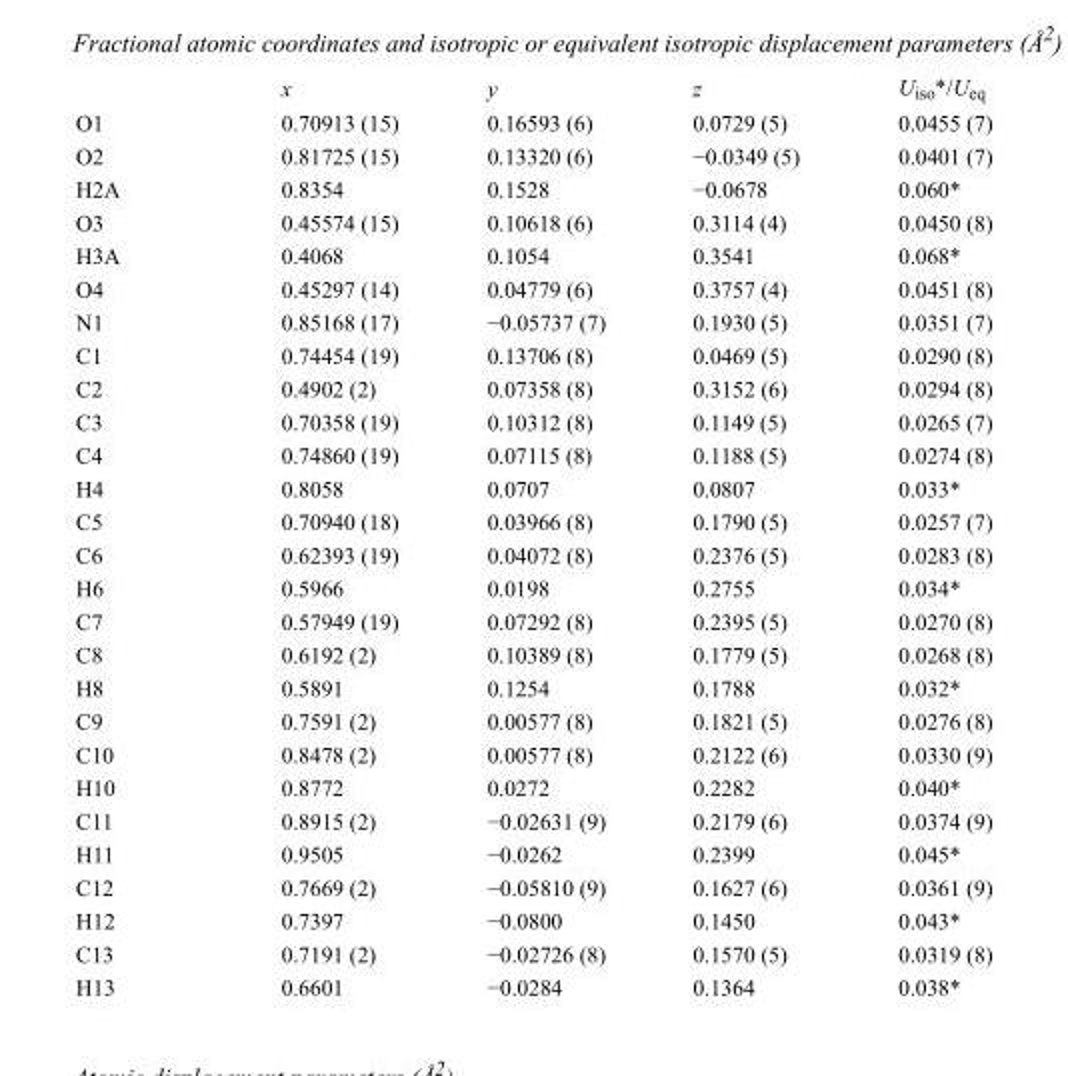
<table><thead><tr><td></td><td>x</td><td>y</td><td>z</td><td>U<sub>iso</sub>*/U<sub>eq</sub></td></tr></thead><tbody><tr><td>O1</td><td>0.70913 (15)</td><td>0.16593 (6)</td><td>0.0729 (5)</td><td>0.0455 (7)</td></tr><tr><td>O2</td><td>0.81725 (15)</td><td>0.13320 (6)</td><td>−0.0349 (5)</td><td>0.0401 (7)</td></tr><tr><td>H2A</td><td>0.8354</td><td>0.1528</td><td>−0.0678</td><td>0.060*</td></tr><tr><td>O3</td><td>0.45574 (15)</td><td>0.10618 (6)</td><td>0.3114 (4)</td><td>0.0450 (8)</td></tr><tr><td>H3A</td><td>0.4068</td><td>0.1054</td><td>0.3541</td><td>0.068*</td></tr><tr><td>O4</td><td>0.45297 (14)</td><td>0.04779 (6)</td><td>0.3757 (4)</td><td>0.0451 (8)</td></tr><tr><td>N1</td><td>0.85168 (17)</td><td>−0.05737 (7)</td><td>0.1930 (5)</td><td>0.0351 (7)</td></tr><tr><td>C1</td><td>0.74454 (19)</td><td>0.13706 (8)</td><td>0.0469 (5)</td><td>0.0290 (8)</td></tr><tr><td>C2</td><td>0.4902 (2)</td><td>0.07358 (8)</td><td>0.3152 (6)</td><td>0.0294 (8)</td></tr><tr><td>C3</td><td>0.70358 (19)</td><td>0.10312 (8)</td><td>0.1149 (5)</td><td>0.0265 (7)</td></tr><tr><td>C4</td><td>0.74860 (19)</td><td>0.07115 (8)</td><td>0.1188 (5)</td><td>0.0274 (8)</td></tr><tr><td>H4</td><td>0.8058</td><td>0.0707</td><td>0.0807</td><td>0.033*</td></tr><tr><td>C5</td><td>0.70940 (18)</td><td>0.03966 (8)</td><td>0.1790 (5)</td><td>0.0257 (7)</td></tr><tr><td>C6</td><td>0.62393 (19)</td><td>0.04072 (8)</td><td>0.2376 (5)</td><td>0.0283 (8)</td></tr><tr><td>H6</td><td>0.5966</td><td>0.0198</td><td>0.2755</td><td>0.034*</td></tr><tr><td>C7</td><td>0.57949 (19)</td><td>0.07292 (8)</td><td>0.2395 (5)</td><td>0.0270 (8)</td></tr><tr><td>C8</td><td>0.6192 (2)</td><td>0.10389 (8)</td><td>0.1779 (5)</td><td>0.0268 (8)</td></tr><tr><td>H8</td><td>0.5891</td><td>0.1254</td><td>0.1788</td><td>0.032*</td></tr><tr><td>C9</td><td>0.7591 (2)</td><td>0.00577 (8)</td><td>0.1821 (5)</td><td>0.0276 (8)</td></tr><tr><td>C10</td><td>0.8478 (2)</td><td>0.00577 (8)</td><td>0.2122 (6)</td><td>0.0330 (9)</td></tr><tr><td>H10</td><td>0.8772</td><td>0.0272</td><td>0.2282</td><td>0.040*</td></tr><tr><td>C11</td><td>0.8915 (2)</td><td>−0.02631 (9)</td><td>0.2179 (6)</td><td>0.0374 (9)</td></tr><tr><td>H11</td><td>0.9505</td><td>−0.0262</td><td>0.2399</td><td>0.045*</td></tr><tr><td>C12</td><td>0.7669 (2)</td><td>−0.05810 (9)</td><td>0.1627 (6)</td><td>0.0361 (9)</td></tr><tr><td>H12</td><td>0.7397</td><td>−0.0800</td><td>0.1450</td><td>0.043*</td></tr><tr><td>C13</td><td>0.7191 (2)</td><td>−0.02726 (8)</td><td>0.1570 (5)</td><td>0.0319 (8)</td></tr><tr><td>H13</td><td>0.6601</td><td>−0.0284</td><td>0.1364</td><td>0.038*</td></tr></tbody></table>